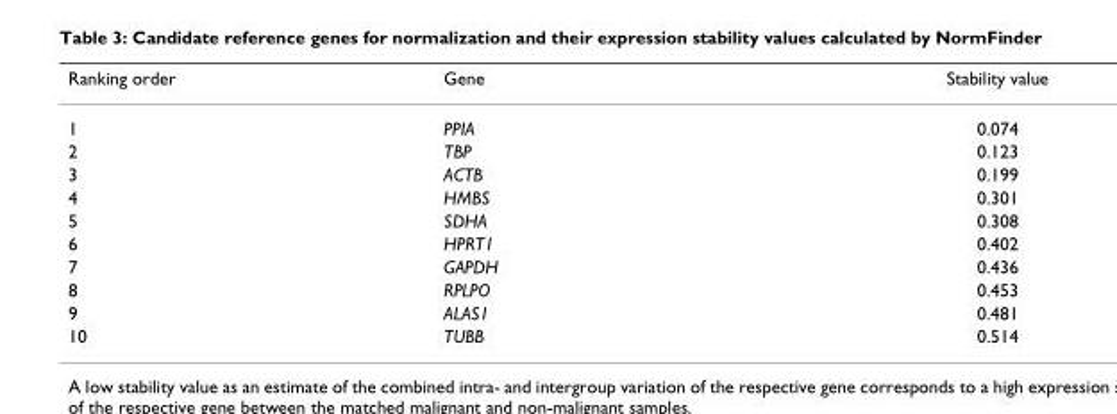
<table><thead><tr><td>Ranking order</td><td>Gene</td><td>Stability value</td></tr></thead><tbody><tr><td>1</td><td>PPIA</td><td>0.074</td></tr><tr><td>2</td><td>TBP</td><td>0.123</td></tr><tr><td>3</td><td>ACTB</td><td>0.199</td></tr><tr><td>4</td><td>HMBS</td><td>0.301</td></tr><tr><td>5</td><td>SDHA</td><td>0.308</td></tr><tr><td>6</td><td>HPRT1</td><td>0.402</td></tr><tr><td>7</td><td>GAPDH</td><td>0.436</td></tr><tr><td>8</td><td>RPLPO</td><td>0.453</td></tr><tr><td>9</td><td>ALAS1</td><td>0.481</td></tr><tr><td>10</td><td>TUBB</td><td>0.514</td></tr></tbody></table>